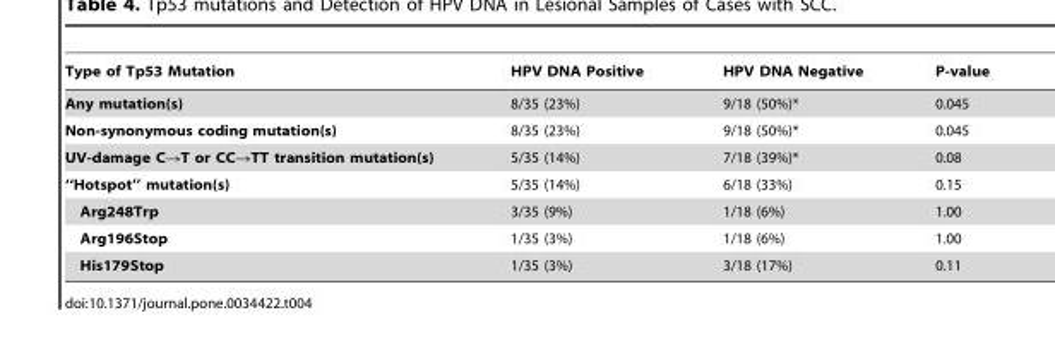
<table><thead><tr><td>Type of Tp53 Mutation</td><td>HPV DNA Positive</td><td>HPV DNA Negative</td><td>P-value</td></tr></thead><tbody><tr><td>Any mutation(s)</td><td>8/35 (23%)</td><td>9/18 (50%)*</td><td>0.045</td></tr><tr><td>Non-synonymous coding mutation(s)</td><td>8/35 (23%)</td><td>9/18 (50%)*</td><td>0.045</td></tr><tr><td>UV-damage C→T or CC→TT transition mutation(s)</td><td>5/35 (14%)</td><td>7/18 (39%)*</td><td>0.08</td></tr><tr><td>‘‘Hotspot’’ mutation(s)</td><td>5/35 (14%)</td><td>6/18 (33%)</td><td>0.15</td></tr><tr><td>Arg248Trp</td><td>3/35 (9%)</td><td>1/18 (6%)</td><td>1.00</td></tr><tr><td>Arg196Stop</td><td>1/35 (3%)</td><td>1/18 (6%)</td><td>1.00</td></tr><tr><td>His179Stop</td><td>1/35 (3%)</td><td>3/18 (17%)</td><td>0.11</td></tr></tbody></table>